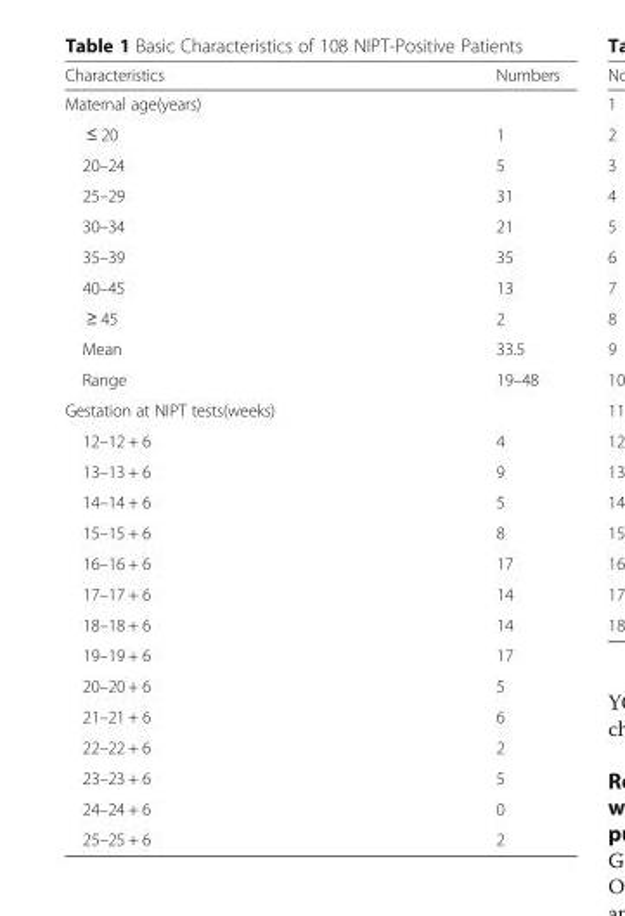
<table><thead><tr><td>Characteristics</td><td>Numbers</td></tr></thead><tbody><tr><td colspan="2">Maternal age(years)</td></tr><tr><td>≤ 20</td><td>1</td></tr><tr><td>20–24</td><td>5</td></tr><tr><td>25–29</td><td>31</td></tr><tr><td>30–34</td><td>21</td></tr><tr><td>35–39</td><td>35</td></tr><tr><td>40–45</td><td>13</td></tr><tr><td>≥ 45</td><td>2</td></tr><tr><td>Mean</td><td>33.5</td></tr><tr><td>Range</td><td>19–48</td></tr><tr><td colspan="2">Gestation at NIPT tests(weeks)</td></tr><tr><td>12–12 + 6</td><td>4</td></tr><tr><td>13–13 + 6</td><td>9</td></tr><tr><td>14–14 + 6</td><td>5</td></tr><tr><td>15–15 + 6</td><td>8</td></tr><tr><td>16–16 + 6</td><td>17</td></tr><tr><td>17–17 + 6</td><td>14</td></tr><tr><td>18–18 + 6</td><td>14</td></tr><tr><td>19–19 + 6</td><td>17</td></tr><tr><td>20–20 + 6</td><td>5</td></tr><tr><td>21–21 + 6</td><td>6</td></tr><tr><td>22–22 + 6</td><td>2</td></tr><tr><td>23–23 + 6</td><td>5</td></tr><tr><td>24–24 + 6</td><td>0</td></tr><tr><td>25–25 + 6</td><td>2</td></tr></tbody></table>